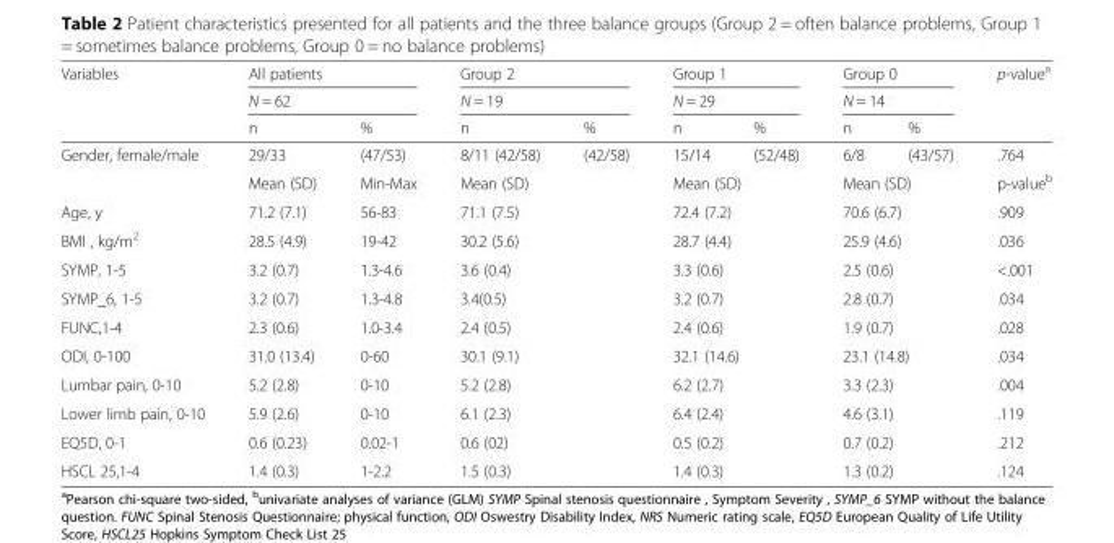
<table><thead><tr><td rowspan="3">Variables</td><td rowspan="2" colspan="2">All patients N = 62</td><td rowspan="2" colspan="2">Group 2 N = 19</td><td rowspan="2" colspan="2">Group 1 N = 29</td><td rowspan="2" colspan="2">Group 0 N = 14</td><td rowspan="3">p-value<sup>a</sup></td></tr><tr></tr><tr><td>n</td><td>%</td><td>n</td><td>%</td><td>n</td><td>%</td><td>n</td><td>%</td></tr></thead><tbody><tr><td rowspan="2">Gender, female/male</td><td>29/33</td><td>(47/53)</td><td>8/11 (42/58)</td><td>(42/58)</td><td>15/14</td><td>(52/48)</td><td>6/8</td><td>(43/57)</td><td>.764</td></tr><tr><td>Mean (SD)</td><td>Min-Max</td><td colspan="2">Mean (SD)</td><td colspan="2">Mean (SD)</td><td colspan="2">Mean (SD)</td><td>p-value<sup>b</sup></td></tr><tr><td>Age, y</td><td>71.2 (7.1)</td><td>56-83</td><td colspan="2">71.1 (7.5)</td><td colspan="2">72.4 (7.2)</td><td colspan="2">70.6 (6.7)</td><td>.909</td></tr><tr><td>BMI , kg/m<sup>2</sup></td><td>28.5 (4.9)</td><td>19-42</td><td colspan="2">30.2 (5.6)</td><td colspan="2">28.7 (4.4)</td><td colspan="2">25.9 (4.6)</td><td>.036</td></tr><tr><td>SYMP, 1-5</td><td>3.2 (0.7)</td><td>1.3-4.6</td><td colspan="2">3.6 (0.4)</td><td colspan="2">3.3 (0.6)</td><td colspan="2">2.5 (0.6)</td><td>&lt;.001</td></tr><tr><td>SYMP_6, 1-5</td><td>3.2 (0.7)</td><td>1.3-4.8</td><td colspan="2">3.4(0.5)</td><td colspan="2">3.2 (0.7)</td><td colspan="2">2.8 (0.7)</td><td>.034</td></tr><tr><td>FUNC,1-4</td><td>2.3 (0.6)</td><td>1.0-3.4</td><td colspan="2">2.4 (0.5)</td><td colspan="2">2.4 (0.6)</td><td colspan="2">1.9 (0.7)</td><td>.028</td></tr><tr><td>ODI, 0-100</td><td>31.0 (13.4)</td><td>0-60</td><td colspan="2">30.1 (9.1)</td><td colspan="2">32.1 (14.6)</td><td colspan="2">23.1 (14.8)</td><td>.034</td></tr><tr><td>Lumbar pain, 0-10</td><td>5.2 (2.8)</td><td>0-10</td><td colspan="2">5.2 (2.8)</td><td colspan="2">6.2 (2.7)</td><td colspan="2">3.3 (2.3)</td><td>.004</td></tr><tr><td>Lower limb pain, 0-10</td><td>5.9 (2.6)</td><td>0-10</td><td colspan="2">6.1 (2.3)</td><td colspan="2">6.4 (2.4)</td><td colspan="2">4.6 (3.1)</td><td>.119</td></tr><tr><td>EQ5D, 0-1</td><td>0.6 (0.23)</td><td>0.02-1</td><td colspan="2">0.6 (02)</td><td colspan="2">0.5 (0.2)</td><td colspan="2">0.7 (0.2)</td><td>.212</td></tr><tr><td>HSCL 25,1-4</td><td>1.4 (0.3)</td><td>1-2.2</td><td colspan="2">1.5 (0.3)</td><td colspan="2">1.4 (0.3)</td><td colspan="2">1.3 (0.2)</td><td>.124</td></tr></tbody></table>